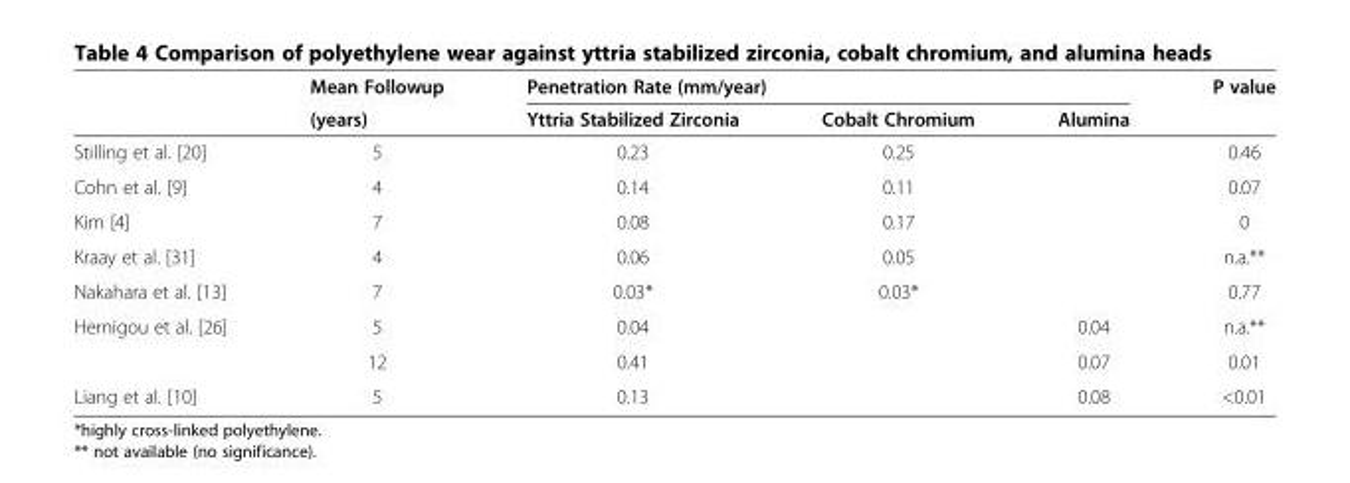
<table><thead><tr><td rowspan="2"></td><td rowspan="2">Mean Followup (years)</td><td colspan="3">Penetration Rate (mm/year)</td><td rowspan="2">P value</td></tr><tr><td>Yttria Stabilized Zirconia</td><td>Cobalt Chromium</td><td>Alumina</td></tr></thead><tbody><tr><td>Stilling et al. [20]</td><td>5</td><td>0.23</td><td>0.25</td><td></td><td>0.46</td></tr><tr><td>Cohn et al. [9]</td><td>4</td><td>0.14</td><td>0.11</td><td></td><td>0.07</td></tr><tr><td>Kim [4]</td><td>7</td><td>0.08</td><td>0.17</td><td></td><td>0</td></tr><tr><td>Kraay et al. [31]</td><td>4</td><td>0.06</td><td>0.05</td><td></td><td>n.a.**</td></tr><tr><td>Nakahara et al. [13]</td><td>7</td><td>0.03*</td><td>0.03*</td><td></td><td>0.77</td></tr><tr><td rowspan="2">Hernigou et al. [26]</td><td>5</td><td>0.04</td><td></td><td>0.04</td><td>n.a.**</td></tr><tr><td>12</td><td>0.41</td><td></td><td>0.07</td><td>0.01</td></tr><tr><td>Liang et al. [10]</td><td>5</td><td>0.13</td><td></td><td>0.08</td><td>&lt;0.01</td></tr></tbody></table>